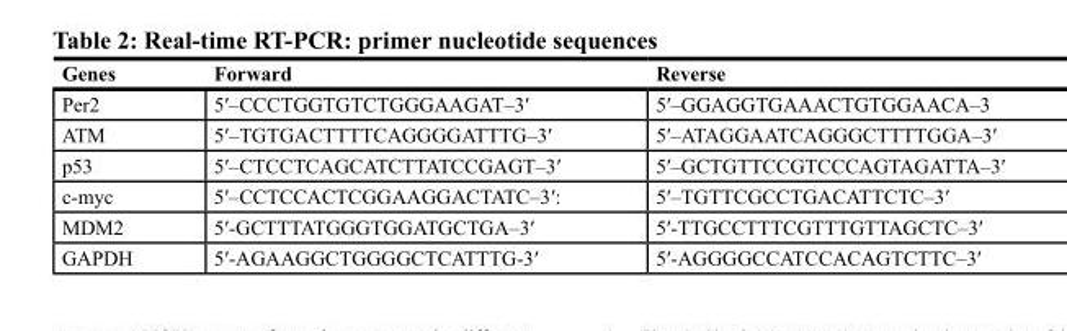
<table><thead><tr><td>Genes</td><td>Forward</td><td>Reverse</td></tr></thead><tbody><tr><td>Per2</td><td>5ʹ–CCCTGGTGTCTGGGAAGAT–3ʹ</td><td>5ʹ–GGAGGTGAAACTGTGGAACA–3</td></tr><tr><td>ATM</td><td>5ʹ–TGTGACTTTTCAGGGGATTTG–3ʹ</td><td>5ʹ–ATAGGAATCAGGGCTTTTGGA–3ʹ</td></tr><tr><td>p53</td><td>5ʹ–CTCCTCAGCATCTTATCCGAGT–3ʹ</td><td>5ʹ–GCTGTTCCGTCCCAGTAGATTA–3ʹ</td></tr><tr><td>c-myc</td><td>5ʹ–CCTCCACTCGGAAGGACTATC–3ʹ:</td><td>5ʹ–TGTTCGCCTGACATTCTC–3ʹ</td></tr><tr><td>MDM2</td><td>5ʹ-GCTTTATGGGTGGATGCTGA–3ʹ</td><td>5ʹ-TTGCCTTTCGTTTGTTAGCTC–3ʹ</td></tr><tr><td>GAPDH</td><td>5ʹ-AGAAGGCTGGGGCTCATTTG-3ʹ</td><td>5ʹ-AGGGGCCATCCACAGTCTTC–3ʹ</td></tr></tbody></table>